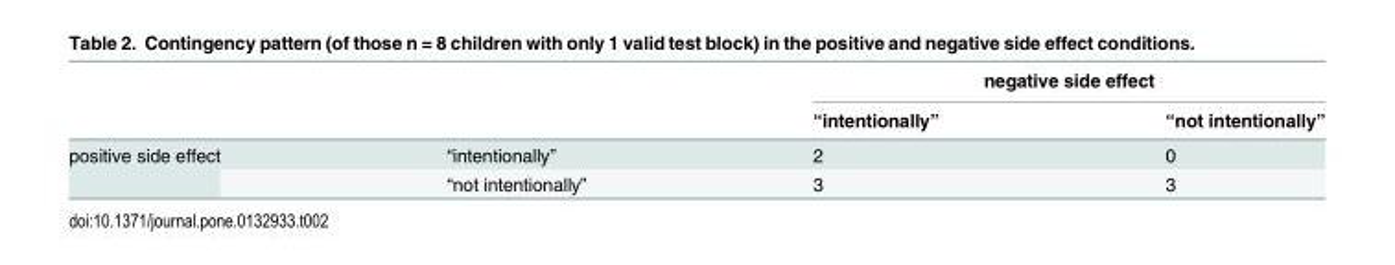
<table><thead><tr><td rowspan="2"></td><td rowspan="2"></td><td colspan="2">negative side effect</td></tr><tr><td>“intentionally”</td><td>“not intentionally”</td></tr></thead><tbody><tr><td rowspan="2">positive side effect</td><td>“intentionally”</td><td>2</td><td>0</td></tr><tr><td>“not intentionally”</td><td>3</td><td>3</td></tr></tbody></table>